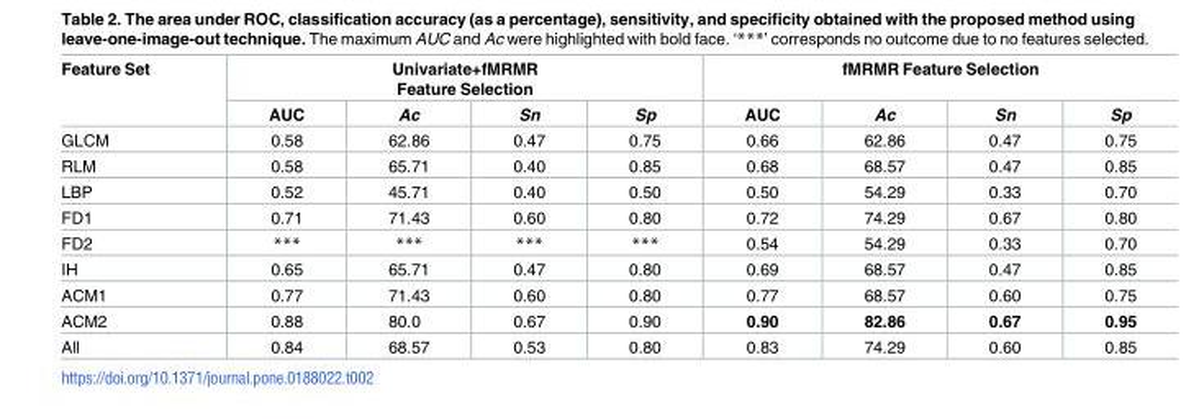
<table><thead><tr><td rowspan="2">Feature Set</td><td colspan="4">Univariate+fMRMR Feature Selection</td><td colspan="4">fMRMR Feature Selection</td></tr><tr><td>AUC</td><td>Ac</td><td>Sn</td><td>Sp</td><td>AUC</td><td>Ac</td><td>Sn</td><td>Sp</td></tr></thead><tbody><tr><td>GLCM</td><td>0.58</td><td>62.86</td><td>0.47</td><td>0.75</td><td>0.66</td><td>62.86</td><td>0.47</td><td>0.75</td></tr><tr><td>RLM</td><td>0.58</td><td>65.71</td><td>0.40</td><td>0.85</td><td>0.68</td><td>68.57</td><td>0.47</td><td>0.85</td></tr><tr><td>LBP</td><td>0.52</td><td>45.71</td><td>0.40</td><td>0.50</td><td>0.50</td><td>54.29</td><td>0.33</td><td>0.70</td></tr><tr><td>FD1</td><td>0.71</td><td>71.43</td><td>0.60</td><td>0.80</td><td>0.72</td><td>74.29</td><td>0.67</td><td>0.80</td></tr><tr><td>FD2</td><td>***</td><td>***</td><td>***</td><td>***</td><td>0.54</td><td>54.29</td><td>0.33</td><td>0.70</td></tr><tr><td>IH</td><td>0.65</td><td>65.71</td><td>0.47</td><td>0.80</td><td>0.69</td><td>68.57</td><td>0.47</td><td>0.85</td></tr><tr><td>ACM1</td><td>0.77</td><td>71.43</td><td>0.60</td><td>0.80</td><td>0.77</td><td>68.57</td><td>0.60</td><td>0.75</td></tr><tr><td>ACM2</td><td>0.88</td><td>80.0</td><td>0.67</td><td>0.90</td><td>0.90</td><td>82.86</td><td>0.67</td><td>0.95</td></tr><tr><td>All</td><td>0.84</td><td>68.57</td><td>0.53</td><td>0.80</td><td>0.83</td><td>74.29</td><td>0.60</td><td>0.85</td></tr></tbody></table>